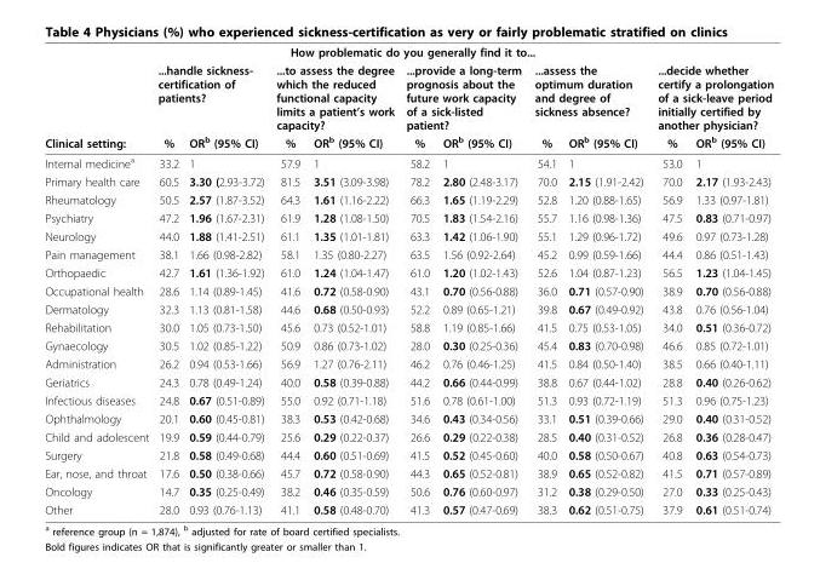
<table><thead><tr><td colspan="11">How problematic do you generally find it to...</td></tr><tr><td rowspan="2">Clinical setting:</td><td colspan="2">...handle sickness- certification of patients?</td><td colspan="2">...to assess the degree which the reduced functional capacity limits a patient’s work capacity?</td><td colspan="2">...provide a long-term prognosis about the future work capacity of a sick-listed patient?</td><td colspan="2">...assess the optimum duration and degree of sickness absence?</td><td colspan="2">...decide whether certify a prolongation of a sick-leave period initially certified by another physician?</td></tr><tr><td>%</td><td>OR<sup>b</sup> (95% CI)</td><td>%</td><td>OR<sup>b</sup> (95% CI)</td><td>%</td><td>OR<sup>b</sup> (95% CI)</td><td>%</td><td>OR<sup>b</sup> (95% CI)</td><td>%</td><td>OR<sup>b</sup> (95% CI)</td></tr></thead><tbody><tr><td>Internal medicine<sup>a</sup></td><td>33.2</td><td>1</td><td>57.9</td><td>1</td><td>58.2</td><td>1</td><td>54.1</td><td>1</td><td>53.0</td><td>1</td></tr><tr><td>Primary health care</td><td>60.5</td><td>3.30 (2.93-3.72)</td><td>81.5</td><td>3.51 (3.09-3.98)</td><td>78.2</td><td>2.80 (2.48-3.17)</td><td>70.0</td><td>2.15 (1.91-2.42)</td><td>70.0</td><td>2.17 (1.93-2.43)</td></tr><tr><td>Rheumatology</td><td>50.5</td><td>2.57 (1.87-3.52)</td><td>64.3</td><td>1.61 (1.16-2.22)</td><td>66.3</td><td>1.65 (1.19-2.29)</td><td>52.8</td><td>1.20 (0.88-1.65)</td><td>56.9</td><td>1.33 (0.97-1.81)</td></tr><tr><td>Psychiatry</td><td>47.2</td><td>1.96 (1.67-2.31)</td><td>61.9</td><td>1.28 (1.08-1.50)</td><td>70.5</td><td>1.83 (1.54-2.16)</td><td>55.7</td><td>1.16 (0.98-1.36)</td><td>47.5</td><td>0.83 (0.71-0.97)</td></tr><tr><td>Neurology</td><td>44.0</td><td>1.88 (1.41-2.51)</td><td>61.1</td><td>1.35 (1.01-1.81)</td><td>63.3</td><td>1.42 (1.06-1.90)</td><td>55.1</td><td>1.29 (0.96-1.72)</td><td>49.6</td><td>0.97 (0.73-1.28)</td></tr><tr><td>Pain management</td><td>38.1</td><td>1.66 (0.98-2.82)</td><td>58.1</td><td>1.35 (0.80-2.27)</td><td>63.5</td><td>1.56 (0.92-2.64)</td><td>45.2</td><td>0.99 (0.59-1.66)</td><td>44.4</td><td>0.86 (0.51-1.43)</td></tr><tr><td>Orthopaedic</td><td>42.7</td><td>1.61 (1.36-1.92)</td><td>61.0</td><td>1.24 (1.04-1.47)</td><td>61.0</td><td>1.20 (1.02-1.43)</td><td>52.6</td><td>1.04 (0.87-1.23)</td><td>56.5</td><td>1.23 (1.04-1.45)</td></tr><tr><td>Occupational health</td><td>28.6</td><td>1.14 (0.89-1.45)</td><td>41.6</td><td>0.72 (0.58-0.90)</td><td>43.1</td><td>0.70 (0.56-0.88)</td><td>36.0</td><td>0.71 (0.57-0.90)</td><td>38.9</td><td>0.70 (0.56-0.88)</td></tr><tr><td>Dermatology</td><td>32.3</td><td>1.13 (0.81-1.58)</td><td>44.6</td><td>0.68 (0.50-0.93)</td><td>52.2</td><td>0.89 (0.65-1.21)</td><td>39.8</td><td>0.67 (0.49-0.92)</td><td>43.8</td><td>0.76 (0.56-1.04)</td></tr><tr><td>Rehabilitation</td><td>30.0</td><td>1.05 (0.73-1.50)</td><td>45.6</td><td>0.73 (0.52-1.01)</td><td>58.8</td><td>1.19 (0.85-1.66)</td><td>41.5</td><td>0.75 (0.53-1.05)</td><td>34.0</td><td>0.51 (0.36-0.72)</td></tr><tr><td>Gynaecology</td><td>30.5</td><td>1.02 (0.85-1.22)</td><td>50.9</td><td>0.86 (0.73-1.02)</td><td>28.0</td><td>0.30 (0.25-0.36)</td><td>45.4</td><td>0.83 (0.70-0.98)</td><td>46.6</td><td>0.85 (0.72-1.01)</td></tr><tr><td>Administration</td><td>26.2</td><td>0.94 (0.53-1.66)</td><td>56.9</td><td>1.27 (0.76-2.11)</td><td>46.2</td><td>0.76 (0.46-1.25)</td><td>41.5</td><td>0.84 (0.50-1.40)</td><td>38.5</td><td>0.66 (0.40-1.11)</td></tr><tr><td>Geriatrics</td><td>24.3</td><td>0.78 (0.49-1.24)</td><td>40.0</td><td>0.58 (0.39-0.88)</td><td>44.2</td><td>0.66 (0.44-0.99)</td><td>38.8</td><td>0.67 (0.44-1.02)</td><td>28.8</td><td>0.40 (0.26-0.62)</td></tr><tr><td>Infectious diseases</td><td>24.8</td><td>0.67 (0.51-0.89)</td><td>55.0</td><td>0.92 (0.71-1.18)</td><td>51.6</td><td>0.78 (0.61-1.00)</td><td>51.3</td><td>0.93 (0.72-1.19)</td><td>51.3</td><td>0.96 (0.75-1.23)</td></tr><tr><td>Ophthalmology</td><td>20.1</td><td>0.60 (0.45-0.81)</td><td>38.3</td><td>0.53 (0.42-0.68)</td><td>34.6</td><td>0.43 (0.34-0.56)</td><td>33.1</td><td>0.51 (0.39-0.66)</td><td>29.0</td><td>0.40 (0.31-0.52)</td></tr><tr><td>Child and adolescent</td><td>19.9</td><td>0.59 (0.44-0.79)</td><td>25.6</td><td>0.29 (0.22-0.37)</td><td>26.6</td><td>0.29 (0.22-0.38)</td><td>28.5</td><td>0.40 (0.31-0.52)</td><td>26.8</td><td>0.36 (0.28-0.47)</td></tr><tr><td>Surgery</td><td>21.8</td><td>0.58 (0.49-0.68)</td><td>44.4</td><td>0.60 (0.51-0.69)</td><td>41.5</td><td>0.52 (0.45-0.60)</td><td>40.0</td><td>0.58 (0.50-0.67)</td><td>40.8</td><td>0.63 (0.54-0.73)</td></tr><tr><td>Ear, nose, and throat</td><td>17.6</td><td>0.50 (0.38-0.66)</td><td>45.7</td><td>0.72 (0.58-0.90)</td><td>44.3</td><td>0.65 (0.52-0.81)</td><td>38.9</td><td>0.65 (0.52-0.82)</td><td>41.5</td><td>0.71 (0.57-0.89)</td></tr><tr><td>Oncology</td><td>14.7</td><td>0.35 (0.25-0.49)</td><td>38.2</td><td>0.46 (0.35-0.59)</td><td>50.6</td><td>0.76 (0.60-0.97)</td><td>31.2</td><td>0.38 (0.29-0.50)</td><td>27.0</td><td>0.33 (0.25-0.43)</td></tr><tr><td>Other</td><td>28.0</td><td>0.93 (0.76-1.13)</td><td>41.1</td><td>0.58 (0.48-0.70)</td><td>41.3</td><td>0.57 (0.47-0.69)</td><td>38.3</td><td>0.62 (0.51-0.75)</td><td>37.9</td><td>0.61 (0.51-0.74)</td></tr></tbody></table>